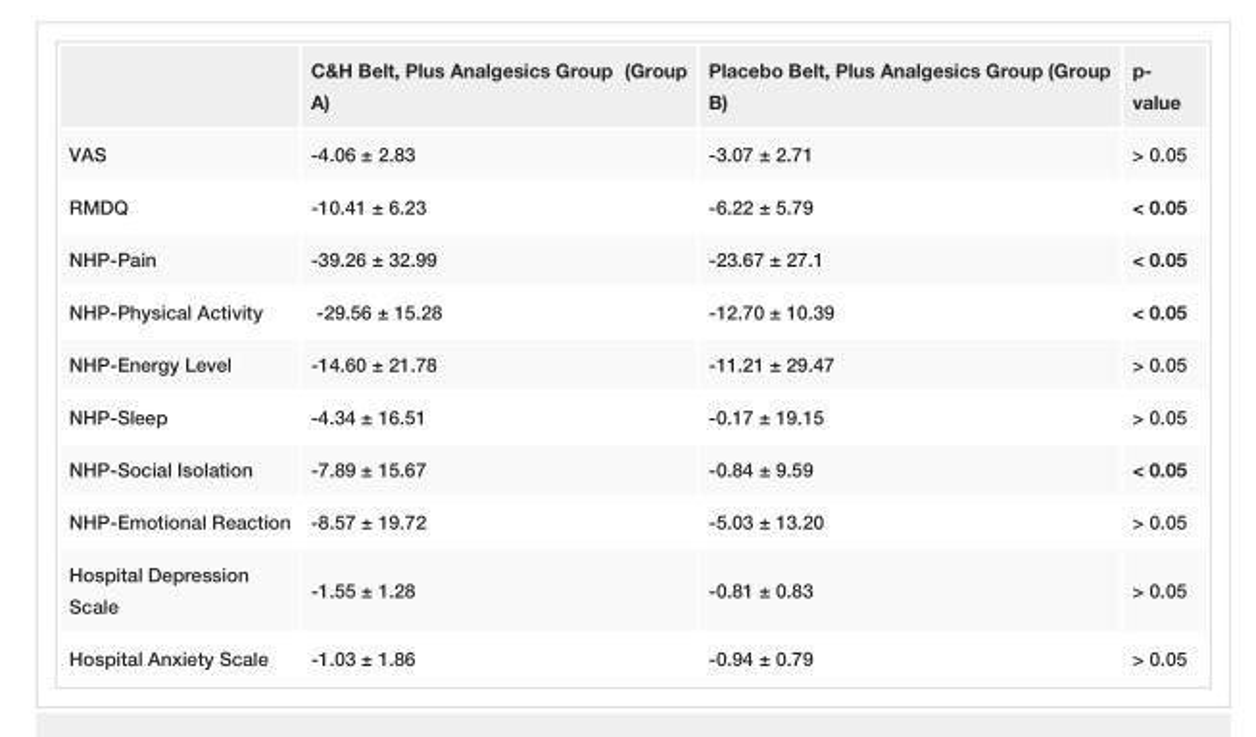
<table><thead><tr><td></td><td>C&amp;H Belt, Plus Analgesics Group (Group A)</td><td>Placebo Belt, Plus Analgesics Group (Group B)</td><td>p- value</td></tr></thead><tbody><tr><td>VAS</td><td>-4.06 ± 2.83</td><td>-3.07 ± 2.71</td><td>&gt; 0.05</td></tr><tr><td>RMDQ</td><td>-10.41 ± 6.23</td><td>-6.22 ± 5.79</td><td>&lt; 0.05</td></tr><tr><td>NHP-Pain</td><td>-39.26 ± 32.99</td><td>-23.67 ± 27.1</td><td>&lt; 0.05</td></tr><tr><td>NHP-Physical Activity</td><td>-29.56 ± 15.28</td><td>-12.70 ± 10.39</td><td>&lt; 0.05</td></tr><tr><td>NHP-Energy Level</td><td>-14.60 ± 21.78</td><td>-11.21 ± 29.47</td><td>&gt; 0.05</td></tr><tr><td>NHP-Sleep</td><td>-4.34 ± 16.51</td><td>-0.17 ± 19.15</td><td>&gt; 0.05</td></tr><tr><td>NHP-Social Isolation</td><td>-7.89 ± 15.67</td><td>-0.84 ± 9.59</td><td>&lt; 0.05</td></tr><tr><td>NHP-Emotional Reaction</td><td>-8.57 ± 19.72</td><td>-5.03 ± 13.20</td><td>&gt; 0.05</td></tr><tr><td>Hospital Depression Scale</td><td>-1.55 ± 1.28</td><td>-0.81 ± 0.83</td><td>&gt; 0.05</td></tr><tr><td>Hospital Anxiety Scale</td><td>-1.03 ± 1.86</td><td>-0.94 ± 0.79</td><td>&gt; 0.05</td></tr></tbody></table>